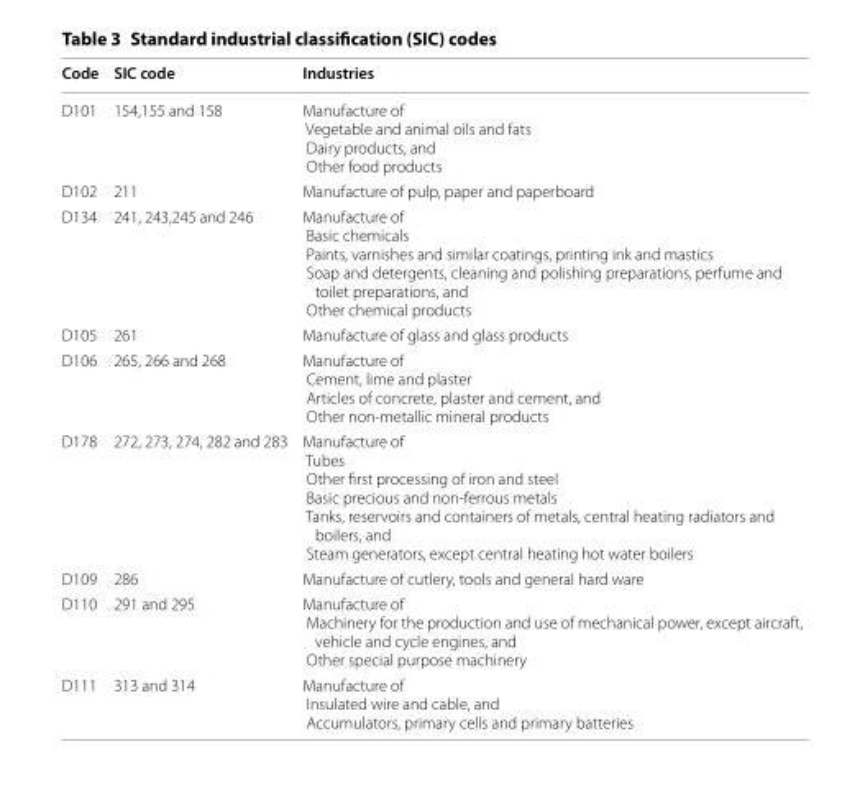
<table><thead><tr><td>Code</td><td>SIC code</td><td>Industries</td></tr></thead><tbody><tr><td>D101</td><td>154,155 and 158</td><td>Manufacture of Vegetable and animal oils and fats Dairy products, and Other food products</td></tr><tr><td>D102</td><td>211</td><td>Manufacture of pulp, paper and paperboard</td></tr><tr><td>D134</td><td>241, 243,245 and 246</td><td>Manufacture of Basic chemicals Paints, varnishes and similar coatings, printing ink and mastics Soap and detergents, cleaning and polishing preparations, perfume and toilet preparations, and Other chemical products</td></tr><tr><td>D105</td><td>261</td><td>Manufacture of glass and glass products</td></tr><tr><td>D106</td><td>265, 266 and 268</td><td>Manufacture of Cement, lime and plaster Articles of concrete, plaster and cement, and Other non-metallic mineral products</td></tr><tr><td>D178</td><td>272, 273, 274, 282 and 283</td><td>Manufacture of Tubes Other first processing of iron and steel Basic precious and non-ferrous metals Tanks, reservoirs and containers of metals, central heating radiators and boilers, and Steam generators, except central heating hot water boilers</td></tr><tr><td>D109</td><td>286</td><td>Manufacture of cutlery, tools and general hard ware</td></tr><tr><td>D110</td><td>291 and 295</td><td>Manufacture of Machinery for the production and use of mechanical power, except aircraft, vehicle and cycle engines, and Other special purpose machinery</td></tr><tr><td>D111</td><td>313 and 314</td><td>Manufacture of Insulated wire and cable, and Accumulators, primary cells and primary batteries</td></tr></tbody></table>